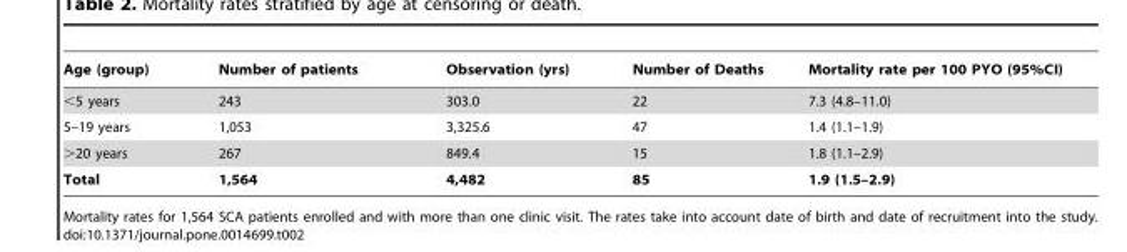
<table><thead><tr><td>Age (group)</td><td>Number of patients</td><td>Observation (yrs)</td><td>Number of Deaths</td><td>Mortality rate per 100 PYO (95%CI)</td></tr></thead><tbody><tr><td>&lt;5 years</td><td>243</td><td>303.0</td><td>22</td><td>7.3 (4.8–11.0)</td></tr><tr><td>5–19 years</td><td>1,053</td><td>3,325.6</td><td>47</td><td>1.4 (1.1–1.9)</td></tr><tr><td>&gt;20 years</td><td>267</td><td>849.4</td><td>15</td><td>1.8 (1.1–2.9)</td></tr><tr><td>Total</td><td>1,564</td><td>4,482</td><td>85</td><td>1.9 (1.5–2.9)</td></tr></tbody></table>